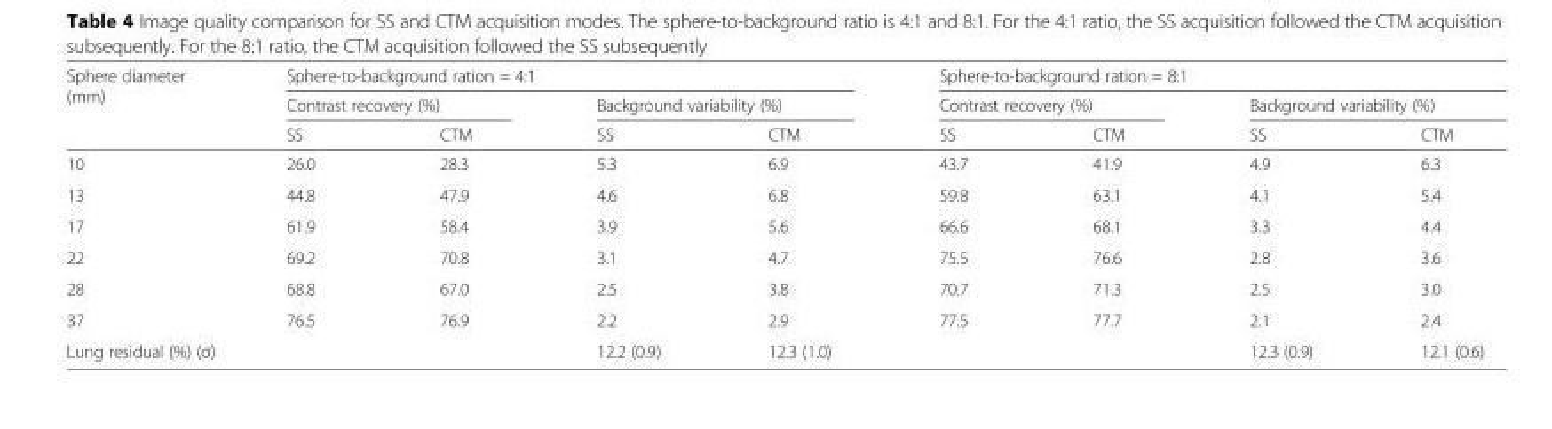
<table><thead><tr><td rowspan="3">Sphere diameter (mm)</td><td colspan="4">Sphere-to-background ration = 4:1</td><td colspan="4">Sphere-to-background ration = 8:1</td></tr><tr><td colspan="2">Contrast recovery (%)</td><td colspan="2">Background variability (%)</td><td colspan="2">Contrast recovery (%)</td><td colspan="2">Background variability (%)</td></tr><tr><td>SS</td><td>CTM</td><td>SS</td><td>CTM</td><td>SS</td><td>CTM</td><td>SS</td><td>CTM</td></tr></thead><tbody><tr><td>10</td><td>26.0</td><td>28.3</td><td>5.3</td><td>6.9</td><td>43.7</td><td>41.9</td><td>4.9</td><td>6.3</td></tr><tr><td>13</td><td>44.8</td><td>47.9</td><td>4.6</td><td>6.8</td><td>59.8</td><td>63.1</td><td>4.1</td><td>5.4</td></tr><tr><td>17</td><td>61.9</td><td>58.4</td><td>3.9</td><td>5.6</td><td>66.6</td><td>68.1</td><td>3.3</td><td>4.4</td></tr><tr><td>22</td><td>69.2</td><td>70.8</td><td>3.1</td><td>4.7</td><td>75.5</td><td>76.6</td><td>2.8</td><td>3.6</td></tr><tr><td>28</td><td>68.8</td><td>67.0</td><td>2.5</td><td>3.8</td><td>70.7</td><td>71.3</td><td>2.5</td><td>3.0</td></tr><tr><td>37</td><td>76.5</td><td>76.9</td><td>2.2</td><td>2.9</td><td>77.5</td><td>77.7</td><td>2.1</td><td>2.4</td></tr><tr><td colspan="3">Lung residual (%) (σ)</td><td>12.2 (0.9)</td><td>12.3 (1.0)</td><td></td><td></td><td>12.3 (0.9)</td><td>12.1 (0.6)</td></tr></tbody></table>